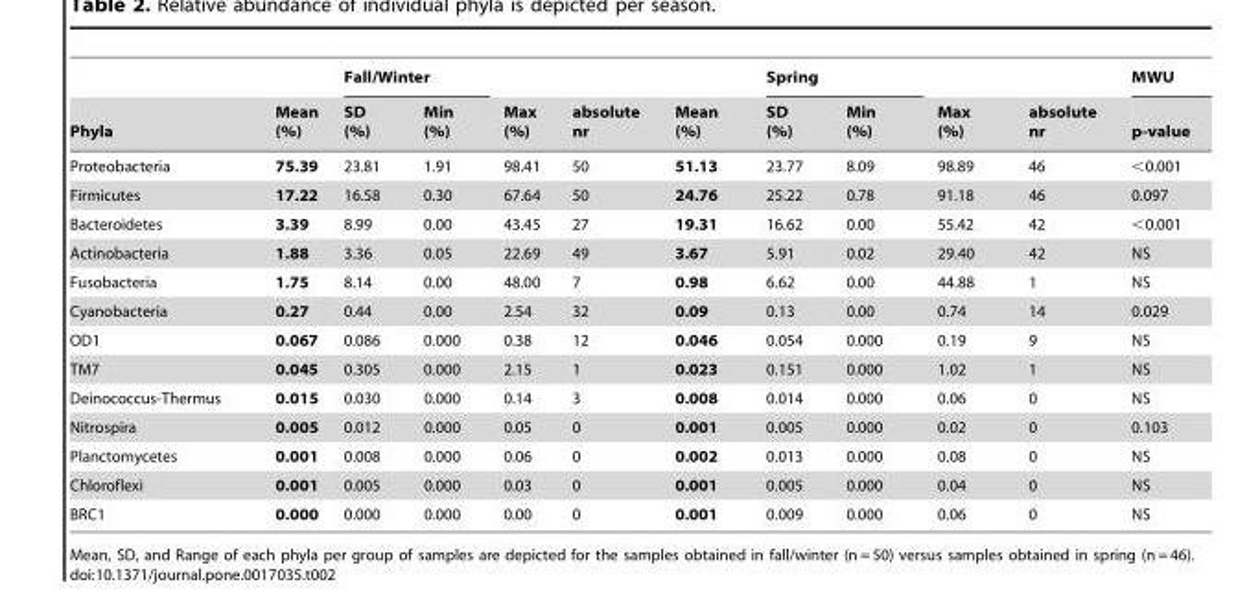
<table><thead><tr><td rowspan="2">Phyla</td><td rowspan="2">Mean (%)</td><td colspan="2">Fall/Winter</td><td rowspan="2">Max (%)</td><td rowspan="2">absolute nr</td><td rowspan="2">Mean (%)</td><td colspan="2">Spring</td><td rowspan="2">Max (%)</td><td rowspan="2">absolute nr</td><td rowspan="2">MWU p-value</td></tr><tr><td>SD (%)</td><td>Min (%)</td><td>SD (%)</td><td>Min (%)</td></tr></thead><tbody><tr><td>Proteobacteria</td><td>75.39</td><td>23.81</td><td>1.91</td><td>98.41</td><td>50</td><td>51.13</td><td>23.77</td><td>8.09</td><td>98.89</td><td>46</td><td>&lt;0.001</td></tr><tr><td>Firmicutes</td><td>17.22</td><td>16.58</td><td>0.30</td><td>67.64</td><td>50</td><td>24.76</td><td>25.22</td><td>0.78</td><td>91.18</td><td>46</td><td>0.097</td></tr><tr><td>Bacteroidetes</td><td>3.39</td><td>8.99</td><td>0.00</td><td>43.45</td><td>27</td><td>19.31</td><td>16.62</td><td>0.00</td><td>55.42</td><td>42</td><td>&lt;0.001</td></tr><tr><td>Actinobacteria</td><td>1.88</td><td>3.36</td><td>0.05</td><td>22.69</td><td>49</td><td>3.67</td><td>5.91</td><td>0.02</td><td>29.40</td><td>42</td><td>NS</td></tr><tr><td>Fusobacteria</td><td>1.75</td><td>8.14</td><td>0.00</td><td>48.00</td><td>7</td><td>0.98</td><td>6.62</td><td>0.00</td><td>44.88</td><td>1</td><td>NS</td></tr><tr><td>Cyanobacteria</td><td>0.27</td><td>0.44</td><td>0.00</td><td>2.54</td><td>32</td><td>0.09</td><td>0.13</td><td>0.00</td><td>0.74</td><td>14</td><td>0.029</td></tr><tr><td>OD1</td><td>0.067</td><td>0.086</td><td>0.000</td><td>0.38</td><td>12</td><td>0.046</td><td>0.054</td><td>0.000</td><td>0.19</td><td>9</td><td>NS</td></tr><tr><td>TM7</td><td>0.045</td><td>0.305</td><td>0.000</td><td>2.15</td><td>1</td><td>0.023</td><td>0.151</td><td>0.000</td><td>1.02</td><td>1</td><td>NS</td></tr><tr><td>Deinococcus-Thermus</td><td>0.015</td><td>0.030</td><td>0.000</td><td>0.14</td><td>3</td><td>0.008</td><td>0.014</td><td>0.000</td><td>0.06</td><td>0</td><td>NS</td></tr><tr><td>Nitrospira</td><td>0.005</td><td>0.012</td><td>0.000</td><td>0.05</td><td>0</td><td>0.001</td><td>0.005</td><td>0.000</td><td>0.02</td><td>0</td><td>0.103</td></tr><tr><td>Planctomycetes</td><td>0.001</td><td>0.008</td><td>0.000</td><td>0.06</td><td>0</td><td>0.002</td><td>0.013</td><td>0.000</td><td>0.08</td><td>0</td><td>NS</td></tr><tr><td>Chloroflexi</td><td>0.001</td><td>0.005</td><td>0.000</td><td>0.03</td><td>0</td><td>0.001</td><td>0.005</td><td>0.000</td><td>0.04</td><td>0</td><td>NS</td></tr><tr><td>BRC1</td><td>0.000</td><td>0.000</td><td>0.000</td><td>0.00</td><td>0</td><td>0.001</td><td>0.009</td><td>0.000</td><td>0.06</td><td>0</td><td>NS</td></tr></tbody></table>